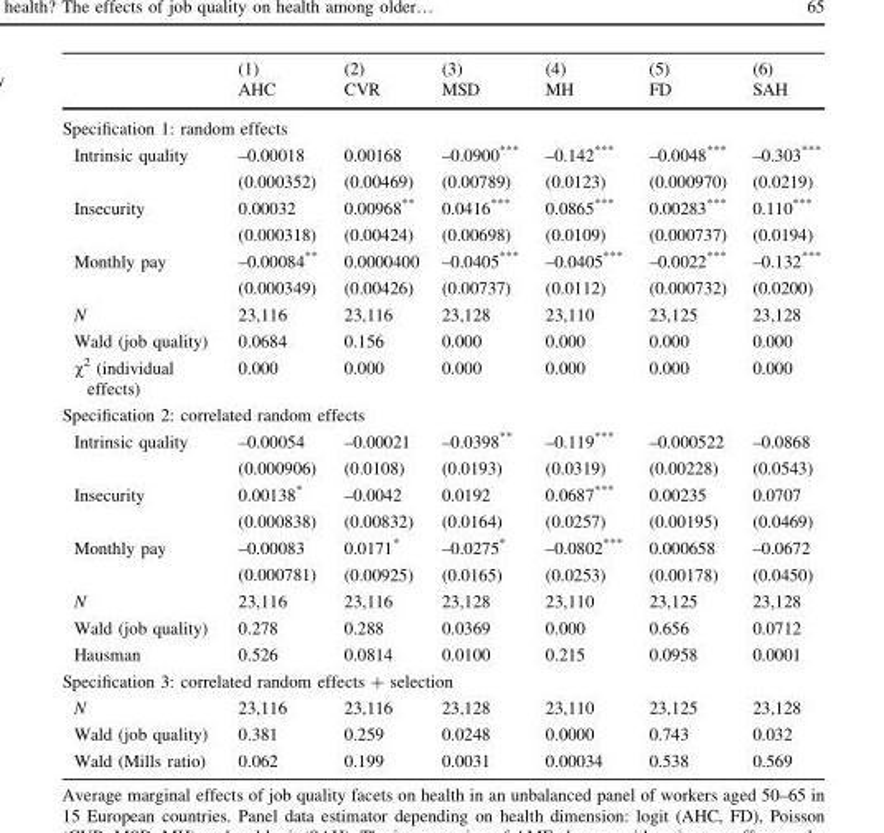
<table><thead><tr><td></td><td>(1) AHC</td><td>(2) CVR</td><td>(3) MSD</td><td>(4) MH</td><td>(5) FD</td><td>(6) SAH</td></tr></thead><tbody><tr><td colspan="7">Specification 1: random effects</td></tr><tr><td>Intrinsic quality</td><td>–0.00018 (0.000352)</td><td>0.00168 (0.00469)</td><td>–0.0900*** (0.00789)</td><td>–0.142*** (0.0123)</td><td>–0.0048*** (0.000970)</td><td>–0.303*** (0.0219)</td></tr><tr><td>Insecurity</td><td>0.00032 (0.000318)</td><td>0.00968** (0.00424)</td><td>0.0416*** (0.00698)</td><td>0.0865*** (0.0109)</td><td>0.00283*** (0.000737)</td><td>0.110*** (0.0194)</td></tr><tr><td>Monthly pay</td><td>–0.00084** (0.000349)</td><td>0.0000400 (0.00426)</td><td>–0.0405*** (0.00737)</td><td>–0.0405*** (0.0112)</td><td>–0.0022*** (0.000732)</td><td>–0.132*** (0.0200)</td></tr><tr><td>N</td><td>23,116</td><td>23,116</td><td>23,128</td><td>23,110</td><td>23,125</td><td>23,128</td></tr><tr><td>Wald (job quality)</td><td>0.0684</td><td>0.156</td><td>0.000</td><td>0.000</td><td>0.000</td><td>0.000</td></tr><tr><td>χ<sup>2</sup> (individual effects)</td><td>0.000</td><td>0.000</td><td>0.000</td><td>0.000</td><td>0.000</td><td>0.000</td></tr><tr><td colspan="7">Specification 2: correlated random effects</td></tr><tr><td>Intrinsic quality</td><td>–0.00054 (0.000906)</td><td>–0.00021 (0.0108)</td><td>–0.0398** (0.0193)</td><td>–0.119*** (0.0319)</td><td>–0.000522 (0.00228)</td><td>–0.0868 (0.0543)</td></tr><tr><td>Insecurity</td><td>0.00138* (0.000838)</td><td>–0.0042 (0.00832)</td><td>0.0192 (0.0164)</td><td>0.0687*** (0.0257)</td><td>0.00235 (0.00195)</td><td>0.0707 (0.0469)</td></tr><tr><td>Monthly pay</td><td>–0.00083 (0.000781)</td><td>0.0171* (0.00925)</td><td>–0.0275* (0.0165)</td><td>–0.0802*** (0.0253)</td><td>0.000658 (0.00178)</td><td>–0.0672 (0.0450)</td></tr><tr><td>N</td><td>23,116</td><td>23,116</td><td>23,128</td><td>23,110</td><td>23,125</td><td>23,128</td></tr><tr><td>Wald (job quality)</td><td>0.278</td><td>0.288</td><td>0.0369</td><td>0.000</td><td>0.656</td><td>0.0712</td></tr><tr><td>Hausman</td><td>0.526</td><td>0.0814</td><td>0.0100</td><td>0.215</td><td>0.0958</td><td>0.0001</td></tr><tr><td colspan="7">Specification 3: correlated random effects + selection</td></tr><tr><td>N</td><td>23,116</td><td>23,116</td><td>23,128</td><td>23,110</td><td>23,125</td><td>23,128</td></tr><tr><td>Wald (job quality)</td><td>0.381</td><td>0.259</td><td>0.0248</td><td>0.0000</td><td>0.743</td><td>0.032</td></tr><tr><td>Wald (Mills ratio)</td><td>0.062</td><td>0.199</td><td>0.0031</td><td>0.00034</td><td>0.538</td><td>0.569</td></tr></tbody></table>